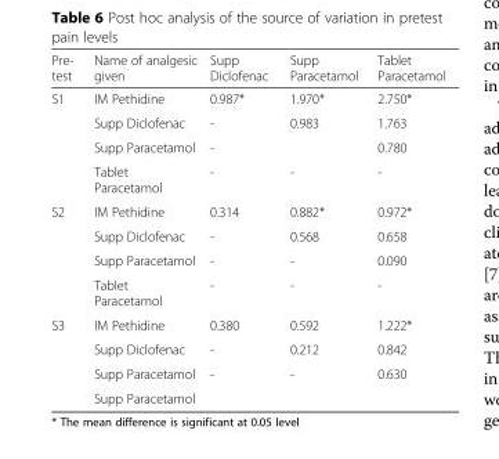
<table><thead><tr><td>Pre- test</td><td>Name of analgesic given</td><td>Supp Diclofenac</td><td>Supp Paracetamol</td><td>Tablet Paracetamol</td></tr></thead><tbody><tr><td rowspan="4">S1</td><td>IM Pethidine</td><td>0.987*</td><td>1.970*</td><td>2.750*</td></tr><tr><td>Supp Diclofenac</td><td>-</td><td>0.983</td><td>1.763</td></tr><tr><td>Supp Paracetamol</td><td>-</td><td></td><td>0.780</td></tr><tr><td>Tablet Paracetamol</td><td>-</td><td>-</td><td>-</td></tr><tr><td rowspan="4">S2</td><td>IM Pethidine</td><td>0.314</td><td>0.882*</td><td>0.972*</td></tr><tr><td>Supp Diclofenac</td><td>-</td><td>0.568</td><td>0.658</td></tr><tr><td>Supp Paracetamol</td><td>-</td><td>-</td><td>0.090</td></tr><tr><td>Tablet Paracetamol</td><td>-</td><td>-</td><td>-</td></tr><tr><td rowspan="4">S3</td><td>IM Pethidine</td><td>0.380</td><td>0.592</td><td>1.222*</td></tr><tr><td>Supp Diclofenac</td><td>-</td><td>0.212</td><td>0.842</td></tr><tr><td>Supp Paracetamol</td><td>-</td><td>-</td><td>0.630</td></tr><tr><td>Supp Paracetamol</td><td></td><td></td><td></td></tr></tbody></table>